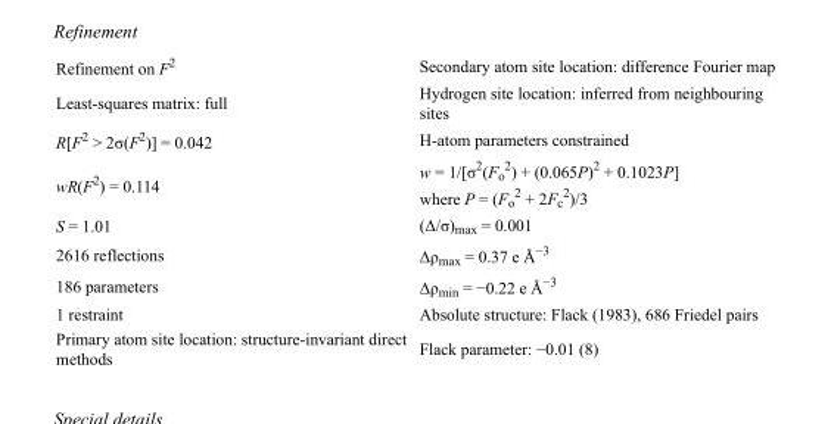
<table><tbody><tr><td>Refinement on F<sup>2</sup></td><td>Secondary atom site location: difference Fourier map</td></tr><tr><td>Least-squares matrix: full</td><td>Hydrogen site location: inferred from neighbouring sites</td></tr><tr><td>R[F<sup>2</sup> &gt; 2σ(F<sup>2</sup>)] = 0.042</td><td>H-atom parameters constrained</td></tr><tr><td>wR(F<sup>2</sup>) = 0.114</td><td>w = 1/[σ<sup>2</sup>(F<sub>o</sub> <sup>2</sup>) + (0.065P)<sup>2</sup> + 0.1023P] where P = (F<sub>o</sub> <sup>2</sup> + 2F<sub>c</sub> <sup>2</sup>)/3</td></tr><tr><td>S = 1.01</td><td>(Δ/σ)<sub>max</sub> = 0.001</td></tr><tr><td>2616 reflections</td><td>Δρ<sub>max</sub> = 0.37 e Å<sup>−3</sup></td></tr><tr><td>186 parameters</td><td>Δρ<sub>min</sub> = −0.22 e Å<sup>−3</sup></td></tr><tr><td>1 restraint</td><td>Absolute structure: Flack (1983), 686 Friedel pairs</td></tr><tr><td>Primary atom site location: structure-invariant direct methods</td><td>Flack parameter: −0.01 (8)</td></tr></tbody></table>